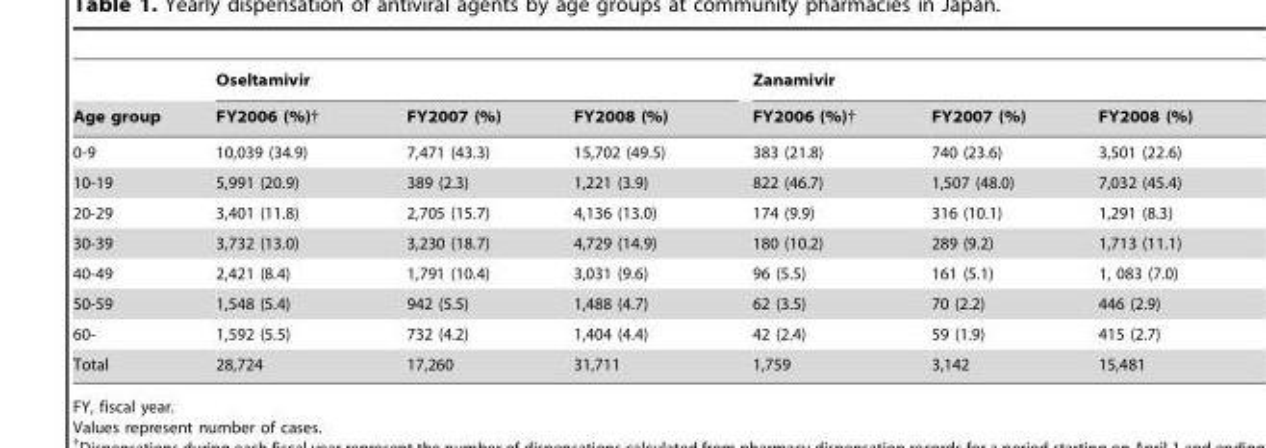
<table><thead><tr><td rowspan="2">Age group</td><td colspan="3">Oseltamivir</td><td colspan="3">Zanamivir</td></tr><tr><td>FY2006 (%)†</td><td>FY2007 (%)</td><td>FY2008 (%)</td><td>FY2006 (%)†</td><td>FY2007 (%)</td><td>FY2008 (%)</td></tr></thead><tbody><tr><td>0-9</td><td>10,039 (34.9)</td><td>7,471 (43.3)</td><td>15,702 (49.5)</td><td>383 (21.8)</td><td>740 (23.6)</td><td>3,501 (22.6)</td></tr><tr><td>10-19</td><td>5,991 (20.9)</td><td>389 (2.3)</td><td>1,221 (3.9)</td><td>822 (46.7)</td><td>1,507 (48.0)</td><td>7,032 (45.4)</td></tr><tr><td>20-29</td><td>3,401 (11.8)</td><td>2,705 (15.7)</td><td>4,136 (13.0)</td><td>174 (9.9)</td><td>316 (10.1)</td><td>1,291 (8.3)</td></tr><tr><td>30-39</td><td>3,732 (13.0)</td><td>3,230 (18.7)</td><td>4,729 (14.9)</td><td>180 (10.2)</td><td>289 (9.2)</td><td>1,713 (11.1)</td></tr><tr><td>40-49</td><td>2,421 (8.4)</td><td>1,791 (10.4)</td><td>3,031 (9.6)</td><td>96 (5.5)</td><td>161 (5.1)</td><td>1, 083 (7.0)</td></tr><tr><td>50-59</td><td>1,548 (5.4)</td><td>942 (5.5)</td><td>1,488 (4.7)</td><td>62 (3.5)</td><td>70 (2.2)</td><td>446 (2.9)</td></tr><tr><td>60-</td><td>1,592 (5.5)</td><td>732 (4.2)</td><td>1,404 (4.4)</td><td>42 (2.4)</td><td>59 (1.9)</td><td>415 (2.7)</td></tr><tr><td>Total</td><td>28,724</td><td>17,260</td><td>31,711</td><td>1,759</td><td>3,142</td><td>15,481</td></tr></tbody></table>